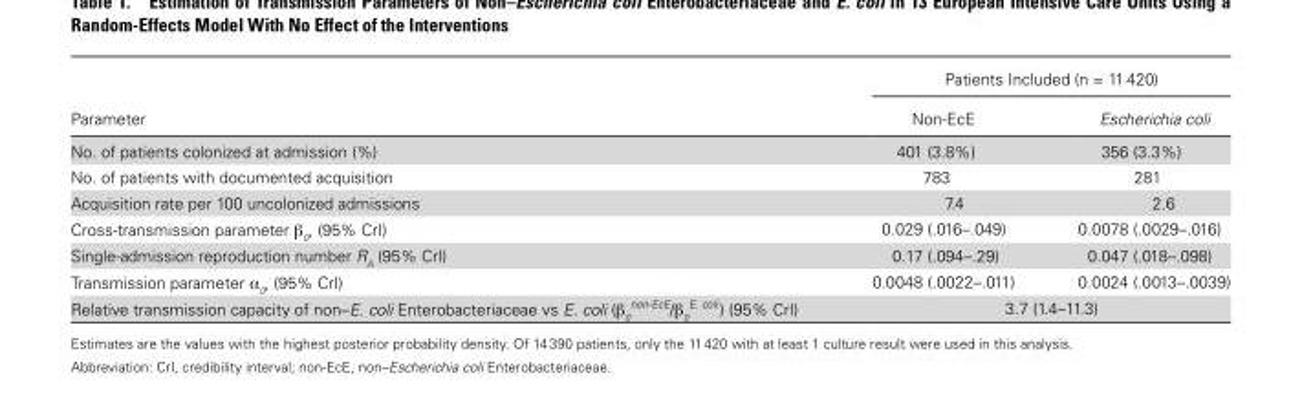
<table><thead><tr><td rowspan="2">Parameter</td><td colspan="2">Patients Included (n = 11 420)</td></tr><tr><td>Non-EcE</td><td>Escherichia coli</td></tr></thead><tbody><tr><td>No. of patients colonized at admission (%)</td><td>401 (3.8%)</td><td>356 (3.3%)</td></tr><tr><td>No. of patients with documented acquisition</td><td>783</td><td>281</td></tr><tr><td>Acquisition rate per 100 uncolonized admissions</td><td>7.4</td><td>2.6</td></tr><tr><td>Cross-transmission parameter β<sub>0</sub>, (95% CrI)</td><td>0.029 (.016–.049)</td><td>0.0078 (.0029–.016)</td></tr><tr><td>Single-admission reproduction number R<sub>A</sub> (95% CrI)</td><td>0.17 (.094–.29)</td><td>0.047 (.018–.098)</td></tr><tr><td>Transmission parameter α<sub>0</sub>, (95% CrI)</td><td>0.0048 (.0022–.011)</td><td>0.0024 (.0013–.0039)</td></tr><tr><td>Relative transmission capacity of non–E. coli Enterobacteriaceae vs E. coli (β<sub>0</sub> <sup>non-EcE</sup>/β<sub>0</sub> <sup>E. coli</sup>) (95% CrI)</td><td colspan="2">3.7 (1.4–11.3)</td></tr></tbody></table>